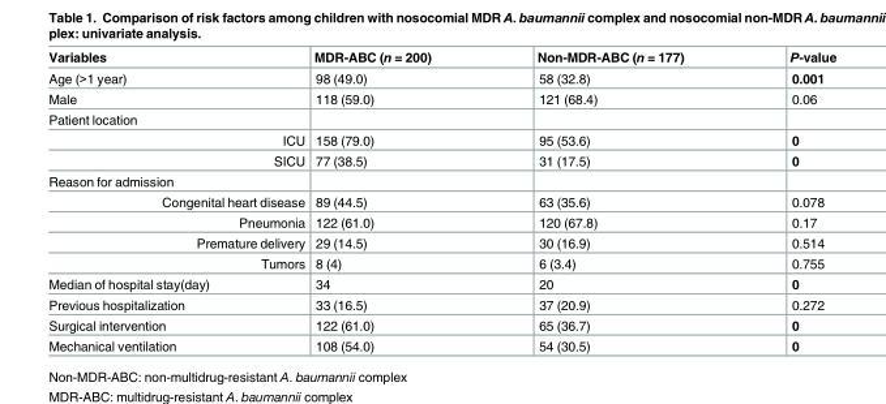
<table><thead><tr><td>Variables</td><td>MDR-ABC (n = 200)</td><td>Non-MDR-ABC (n = 177)</td><td>P-value</td></tr></thead><tbody><tr><td>Age (&gt;1 year)</td><td>98 (49.0)</td><td>58 (32.8)</td><td>0.001</td></tr><tr><td>Male</td><td>118 (59.0)</td><td>121 (68.4)</td><td>0.06</td></tr><tr><td colspan="4">Patient location</td></tr><tr><td>ICU</td><td>158 (79.0)</td><td>95 (53.6)</td><td>0</td></tr><tr><td>SICU</td><td>77 (38.5)</td><td>31 (17.5)</td><td>0</td></tr><tr><td colspan="4">Reason for admission</td></tr><tr><td>Congenital heart disease</td><td>89 (44.5)</td><td>63 (35.6)</td><td>0.078</td></tr><tr><td>Pneumonia</td><td>122 (61.0)</td><td>120 (67.8)</td><td>0.17</td></tr><tr><td>Premature delivery</td><td>29 (14.5)</td><td>30 (16.9)</td><td>0.514</td></tr><tr><td>Tumors</td><td>8 (4)</td><td>6 (3.4)</td><td>0.755</td></tr><tr><td>Median of hospital stay(day)</td><td>34</td><td>20</td><td>0</td></tr><tr><td>Previous hospitalization</td><td>33 (16.5)</td><td>37 (20.9)</td><td>0.272</td></tr><tr><td>Surgical intervention</td><td>122 (61.0)</td><td>65 (36.7)</td><td>0</td></tr><tr><td>Mechanical ventilation</td><td>108 (54.0)</td><td>54 (30.5)</td><td>0</td></tr></tbody></table>